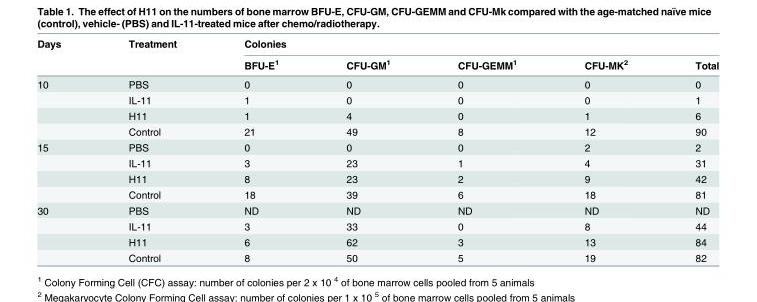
<table><thead><tr><td rowspan="2">Days</td><td rowspan="2">Treatment</td><td colspan="5">Colonies</td></tr><tr><td>BFU-E<sup>1</sup></td><td>CFU-GM<sup>1</sup></td><td>CFU-GEMM<sup>1</sup></td><td>CFU-MK<sup>2</sup></td><td>Total</td></tr></thead><tbody><tr><td rowspan="4">10</td><td>PBS</td><td>0</td><td>0</td><td>0</td><td>0</td><td>0</td></tr><tr><td>IL-11</td><td>1</td><td>0</td><td>0</td><td>0</td><td>1</td></tr><tr><td>H11</td><td>1</td><td>4</td><td>0</td><td>1</td><td>6</td></tr><tr><td>Control</td><td>21</td><td>49</td><td>8</td><td>12</td><td>90</td></tr><tr><td rowspan="4">15</td><td>PBS</td><td>0</td><td>0</td><td>0</td><td>2</td><td>2</td></tr><tr><td>IL-11</td><td>3</td><td>23</td><td>1</td><td>4</td><td>31</td></tr><tr><td>H11</td><td>8</td><td>23</td><td>2</td><td>9</td><td>42</td></tr><tr><td>Control</td><td>18</td><td>39</td><td>6</td><td>18</td><td>81</td></tr><tr><td rowspan="4">30</td><td>PBS</td><td>ND</td><td>ND</td><td>ND</td><td>ND</td><td>ND</td></tr><tr><td>IL-11</td><td>3</td><td>33</td><td>0</td><td>8</td><td>44</td></tr><tr><td>H11</td><td>6</td><td>62</td><td>3</td><td>13</td><td>84</td></tr><tr><td>Control</td><td>8</td><td>50</td><td>5</td><td>19</td><td>82</td></tr></tbody></table>